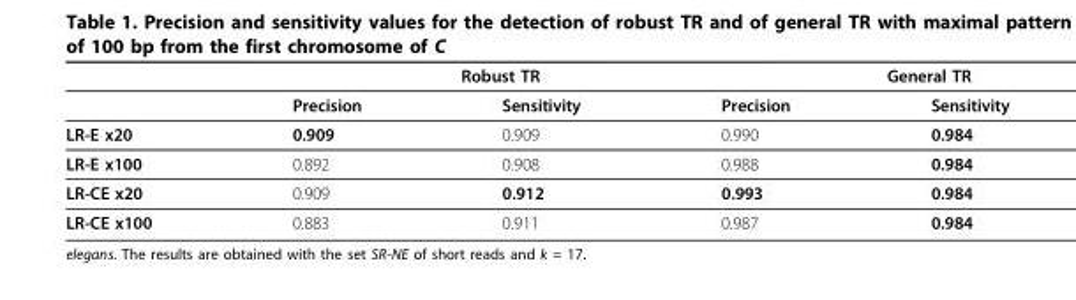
<table><thead><tr><td rowspan="2"></td><td colspan="2">Robust TR</td><td colspan="2">General TR</td></tr><tr><td>Precision</td><td>Sensitivity</td><td>Precision</td><td>Sensitivity</td></tr></thead><tbody><tr><td>LR-E x20</td><td>0.909</td><td>0.909</td><td>0.990</td><td>0.984</td></tr><tr><td>LR-E x100</td><td>0.892</td><td>0.908</td><td>0.988</td><td>0.984</td></tr><tr><td>LR-CE x20</td><td>0.909</td><td>0.912</td><td>0.993</td><td>0.984</td></tr><tr><td>LR-CE x100</td><td>0.883</td><td>0.911</td><td>0.987</td><td>0.984</td></tr></tbody></table>